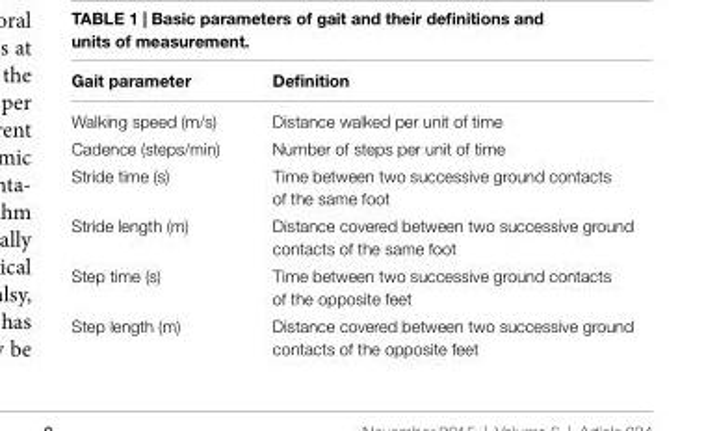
<table><thead><tr><td>Gait parameter</td><td>Definition</td></tr></thead><tbody><tr><td>Walking speed (m/s)</td><td>Distance walked per unit of time</td></tr><tr><td>Cadence (steps/min)</td><td>Number of steps per unit of time</td></tr><tr><td>Stride time (s)</td><td>Time between two successive ground contacts of the same foot</td></tr><tr><td>Stride length (m)</td><td>Distance covered between two successive ground contacts of the same foot</td></tr><tr><td>Step time (s)</td><td>Time between two successive ground contacts of the opposite feet</td></tr><tr><td>Step length (m)</td><td>Distance covered between two successive ground contacts of the opposite feet</td></tr></tbody></table>